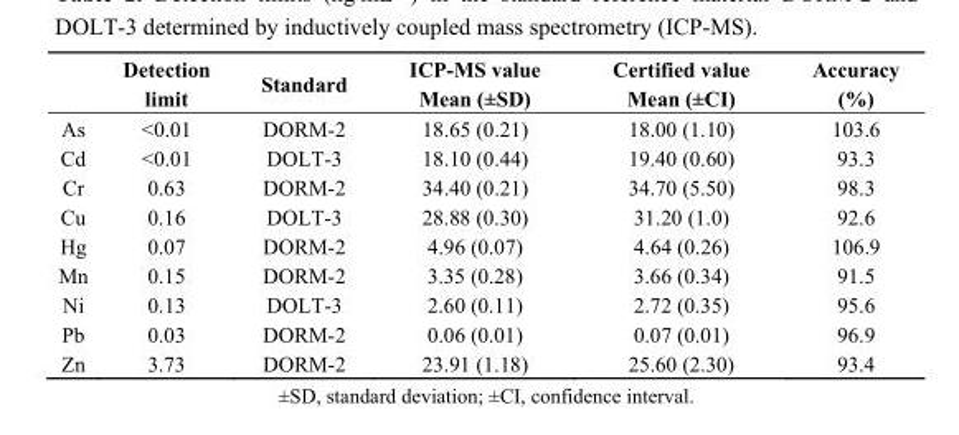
<table><thead><tr><td></td><td>Detection limit</td><td>Standard</td><td>ICP-MS value Mean (±SD)</td><td>Certified value Mean (±CI)</td><td>Accuracy (%)</td></tr></thead><tbody><tr><td>As</td><td>&lt;0.01</td><td>DORM-2</td><td>18.65 (0.21)</td><td>18.00 (1.10)</td><td>103.6</td></tr><tr><td>Cd</td><td>&lt;0.01</td><td>DOLT-3</td><td>18.10 (0.44)</td><td>19.40 (0.60)</td><td>93.3</td></tr><tr><td>Cr</td><td>0.63</td><td>DORM-2</td><td>34.40 (0.21)</td><td>34.70 (5.50)</td><td>98.3</td></tr><tr><td>Cu</td><td>0.16</td><td>DOLT-3</td><td>28.88 (0.30)</td><td>31.20 (1.0)</td><td>92.6</td></tr><tr><td>Hg</td><td>0.07</td><td>DORM-2</td><td>4.96 (0.07)</td><td>4.64 (0.26)</td><td>106.9</td></tr><tr><td>Mn</td><td>0.15</td><td>DORM-2</td><td>3.35 (0.28)</td><td>3.66 (0.34)</td><td>91.5</td></tr><tr><td>Ni</td><td>0.13</td><td>DOLT-3</td><td>2.60 (0.11)</td><td>2.72 (0.35)</td><td>95.6</td></tr><tr><td>Pb</td><td>0.03</td><td>DORM-2</td><td>0.06 (0.01)</td><td>0.07 (0.01)</td><td>96.9</td></tr><tr><td>Zn</td><td>3.73</td><td>DORM-2</td><td>23.91 (1.18)</td><td>25.60 (2.30)</td><td>93.4</td></tr></tbody></table>